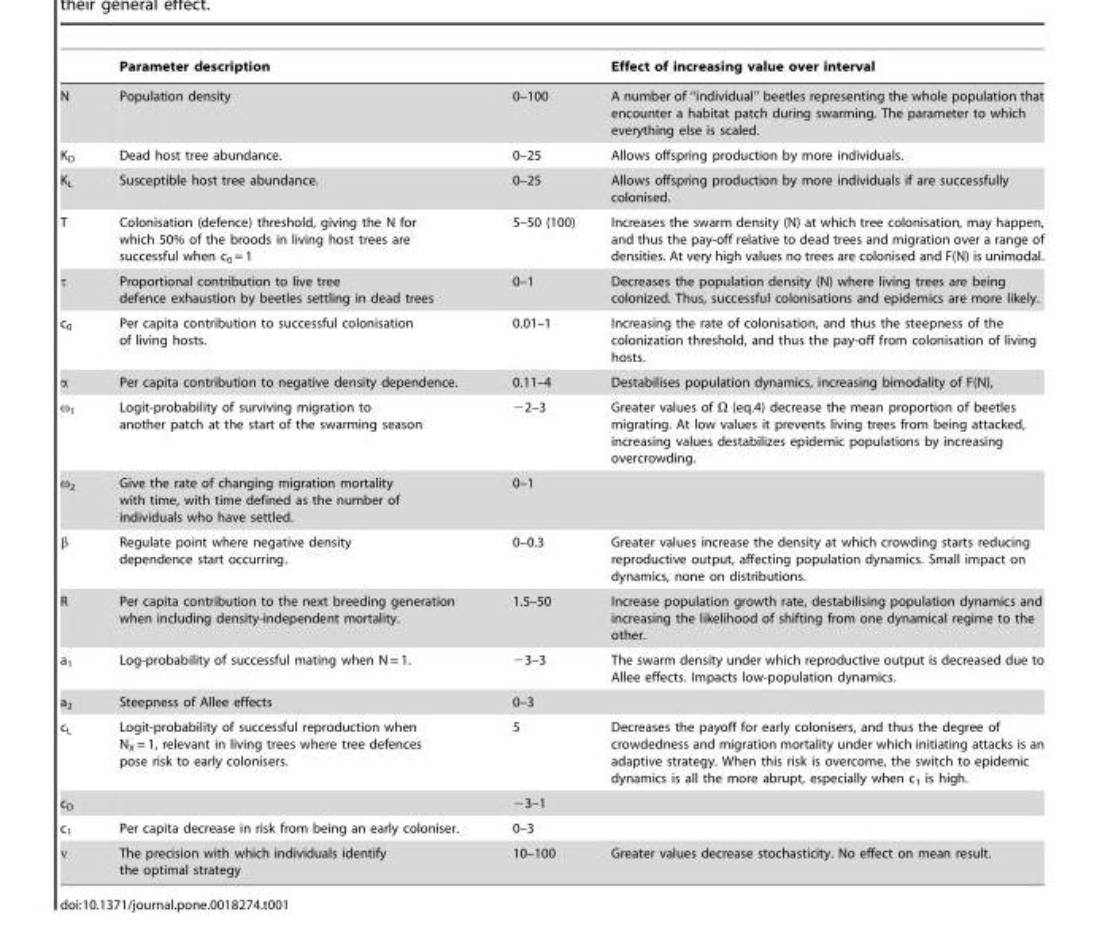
<table><thead><tr><td></td><td>Parameter description</td><td></td><td>Effect of increasing value over interval</td></tr></thead><tbody><tr><td>N</td><td>Population density</td><td>0–100</td><td>A number of ‘‘individual’’ beetles representing the whole population that encounter a habitat patch during swarming. The parameter to which everything else is scaled.</td></tr><tr><td>K<sub>D</sub></td><td>Dead host tree abundance.</td><td>0–25</td><td>Allows offspring production by more individuals.</td></tr><tr><td>K<sub>L</sub></td><td>Susceptible host tree abundance.</td><td>0–25</td><td>Allows offspring production by more individuals if are successfully colonised.</td></tr><tr><td>T</td><td>Colonisation (defence) threshold, giving the N for which 50% of the broods in living host trees are successful when c<sub>0</sub> = 1</td><td>5–50 (100)</td><td>Increases the swarm density (N) at which tree colonisation, may happen, and thus the pay-off relative to dead trees and migration over a range of densities. At very high values no trees are colonised and F(N) is unimodal.</td></tr><tr><td>τ</td><td>Proportional contribution to live tree defence exhaustion by beetles settling in dead trees</td><td>0–1</td><td>Decreases the population density (N) where living trees are being colonized. Thus, successful colonisations and epidemics are more likely.</td></tr><tr><td>c<sub>0</sub></td><td>Per capita contribution to successful colonisation of living hosts.</td><td>0.01–1</td><td>Increasing the rate of colonisation, and thus the steepness of the colonization threshold, and thus the pay-off from colonisation of living hosts.</td></tr><tr><td>α</td><td>Per capita contribution to negative density dependence.</td><td>0.11–4</td><td>Destabilises population dynamics, increasing bimodality of F(N),</td></tr><tr><td>ω<sub>1</sub></td><td>Logit-probability of surviving migration to another patch at the start of the swarming season</td><td>−2–3</td><td>Greater values of Ω (eq.4) decrease the mean proportion of beetles migrating. At low values it prevents living trees from being attacked, increasing values destabilizes epidemic populations by increasing overcrowding.</td></tr><tr><td>ω<sub>2</sub></td><td>Give the rate of changing migration mortality with time, with time defined as the number of individuals who have settled.</td><td>0–1</td><td></td></tr><tr><td>β</td><td>Regulate point where negative density dependence start occurring.</td><td>0–0.3</td><td>Greater values increase the density at which crowding starts reducing reproductive output, affecting population dynamics. Small impact on dynamics, none on distributions.</td></tr><tr><td>R</td><td>Per capita contribution to the next breeding generation when including density-independent mortality.</td><td>1.5–50</td><td>Increase population growth rate, destabilising population dynamics and increasing the likelihood of shifting from one dynamical regime to the other.</td></tr><tr><td>a<sub>1</sub></td><td>Log-probability of successful mating when N = 1.</td><td>−3–3</td><td>The swarm density under which reproductive output is decreased due to Allee effects. Impacts low-population dynamics.</td></tr><tr><td>a<sub>2</sub></td><td>Steepness of Allee effects</td><td>0–3</td><td></td></tr><tr><td>c<sub>L</sub></td><td>Logit-probability of successful reproduction when N<sub>X</sub> = 1, relevant in living trees where tree defences pose risk to early colonisers.</td><td>5</td><td>Decreases the payoff for early colonisers, and thus the degree of crowdedness and migration mortality under which initiating attacks is an adaptive strategy. When this risk is overcome, the switch to epidemic dynamics is all the more abrupt, especially when c<sub>1</sub> is high.</td></tr><tr><td>c<sub>D</sub></td><td></td><td>−3–1</td><td></td></tr><tr><td>c<sub>1</sub></td><td>Per capita decrease in risk from being an early coloniser.</td><td>0–3</td><td></td></tr><tr><td>ν</td><td>The precision with which individuals identify the optimal strategy</td><td>10–100</td><td>Greater values decrease stochasticity. No effect on mean result.</td></tr></tbody></table>